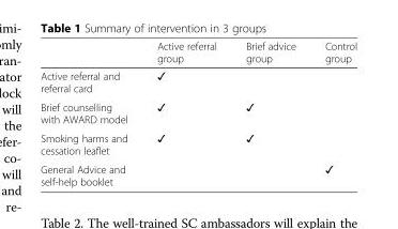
<table><thead><tr><td></td><td>Active referral group</td><td>Brief advice group</td><td>Control group</td></tr></thead><tbody><tr><td>Active referral and referral card</td><td>✓</td><td></td><td></td></tr><tr><td>Brief counselling with AWARD model</td><td>✓</td><td>✓</td><td></td></tr><tr><td>Smoking harms and cessation leaflet</td><td>✓</td><td>✓</td><td></td></tr><tr><td>General Advice and self-help booklet</td><td></td><td></td><td>✓</td></tr></tbody></table>